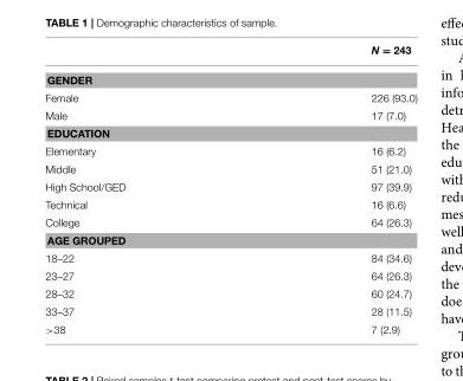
<table><thead><tr><td></td><td>N = 243</td></tr></thead><tbody><tr><td colspan="2">GENDER</td></tr><tr><td>Female</td><td>226 (93.0)</td></tr><tr><td>Male</td><td>17 (7.0)</td></tr><tr><td colspan="2">EDUCATION</td></tr><tr><td>Elementary</td><td>16 (6.2)</td></tr><tr><td>Middle</td><td>51 (21.0)</td></tr><tr><td>High School/GED</td><td>97 (39.9)</td></tr><tr><td>Technical</td><td>16 (6.6)</td></tr><tr><td>College</td><td>64 (26.3)</td></tr><tr><td colspan="2">AGE GROUPED</td></tr><tr><td>18–22</td><td>84 (34.6)</td></tr><tr><td>23–27</td><td>64 (26.3)</td></tr><tr><td>28–32</td><td>60 (24.7)</td></tr><tr><td>33–37</td><td>28 (11.5)</td></tr><tr><td>&gt;38</td><td>7 (2.9)</td></tr></tbody></table>